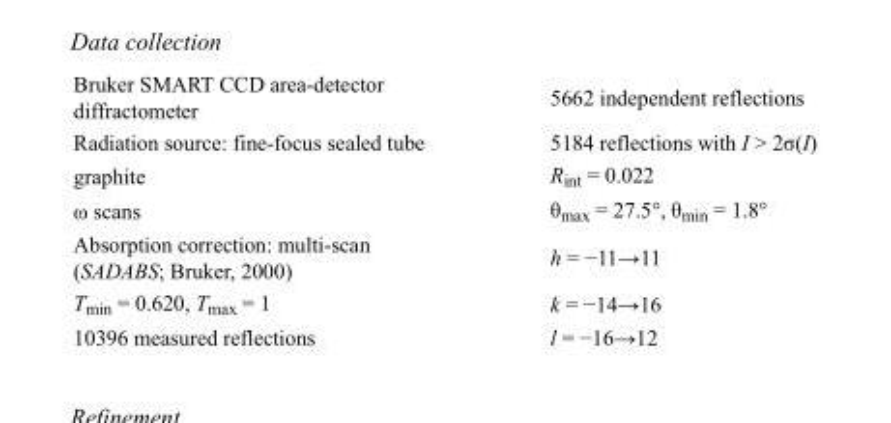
<table><tbody><tr><td>Bruker SMART CCD area-detector diffractometer</td><td>5662 independent reflections</td></tr><tr><td>Radiation source: fine-focus sealed tube</td><td>5184 reflections with I &gt; 2σ(I)</td></tr><tr><td>graphite</td><td>R<sub>int</sub> = 0.022</td></tr><tr><td>ω scans</td><td>θ<sub>max</sub> = 27.5°, θ<sub>min</sub> = 1.8°</td></tr><tr><td>Absorption correction: multi-scan (SADABS; Bruker, 2000)</td><td>h = −11→11</td></tr><tr><td>T<sub>min</sub> = 0.620, T<sub>max</sub> = 1</td><td>k = −14→16</td></tr><tr><td>10396 measured reflections</td><td>l = −16→12</td></tr></tbody></table>